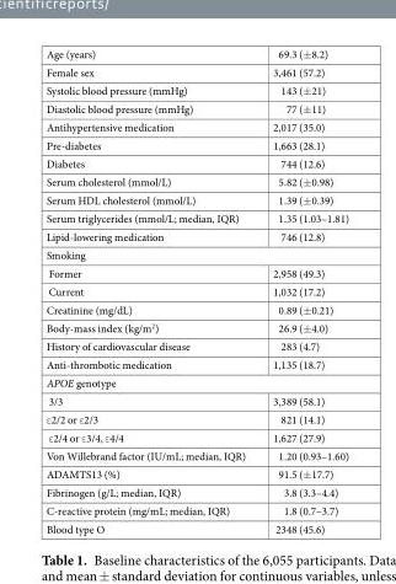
<table><tbody><tr><td>Age (years)</td><td>69.3 (±8.2)</td></tr><tr><td>Female sex</td><td>3,461 (57.2)</td></tr><tr><td>Systolic blood pressure (mmHg)</td><td>143 (±21)</td></tr><tr><td>Diastolic blood pressure (mmHg)</td><td>77 (±11)</td></tr><tr><td>Antihypertensive medication</td><td>2,017 (35.0)</td></tr><tr><td>Pre-diabetes</td><td>1,663 (28.1)</td></tr><tr><td>Diabetes</td><td>744 (12.6)</td></tr><tr><td>Serum cholesterol (mmol/L)</td><td>5.82 (±0.98)</td></tr><tr><td>Serum HDL cholesterol (mmol/L)</td><td>1.39 (±0.39)</td></tr><tr><td>Serum triglycerides (mmol/L; median, IQR)</td><td>1.35 (1.03–1.81)</td></tr><tr><td>Lipid-lowering medication</td><td>746 (12.8)</td></tr><tr><td colspan="2">Smoking</td></tr><tr><td>Former</td><td>2,958 (49.3)</td></tr><tr><td>Current</td><td>1,032 (17.2)</td></tr><tr><td>Creatinine (mg/dL)</td><td>0.89 (±0.21)</td></tr><tr><td>Body-mass index (kg/m<sup>2</sup>)</td><td>26.9 (±4.0)</td></tr><tr><td>History of cardiovascular disease</td><td>283 (4.7)</td></tr><tr><td>Anti-thrombotic medication</td><td>1,135 (18.7)</td></tr><tr><td colspan="2">APOE genotype</td></tr><tr><td>3/3</td><td>3,389 (58.1)</td></tr><tr><td>ε2/2 or ε2/3</td><td>821 (14.1)</td></tr><tr><td>ε2/4 or ε3/4, ε4/4</td><td>1,627 (27.9)</td></tr><tr><td>Von Willebrand factor (IU/mL; median, IQR)</td><td>1.20 (0.93–1.60)</td></tr><tr><td>ADAMTS13 (%)</td><td>91.5 (±17.7)</td></tr><tr><td>Fibrinogen (g/L; median, IQR)</td><td>3.8 (3.3–4.4)</td></tr><tr><td>C-reactive protein (mg/mL; median, IQR)</td><td>1.8 (0.7–3.7)</td></tr><tr><td>Blood type O</td><td>2348 (45.6)</td></tr></tbody></table>